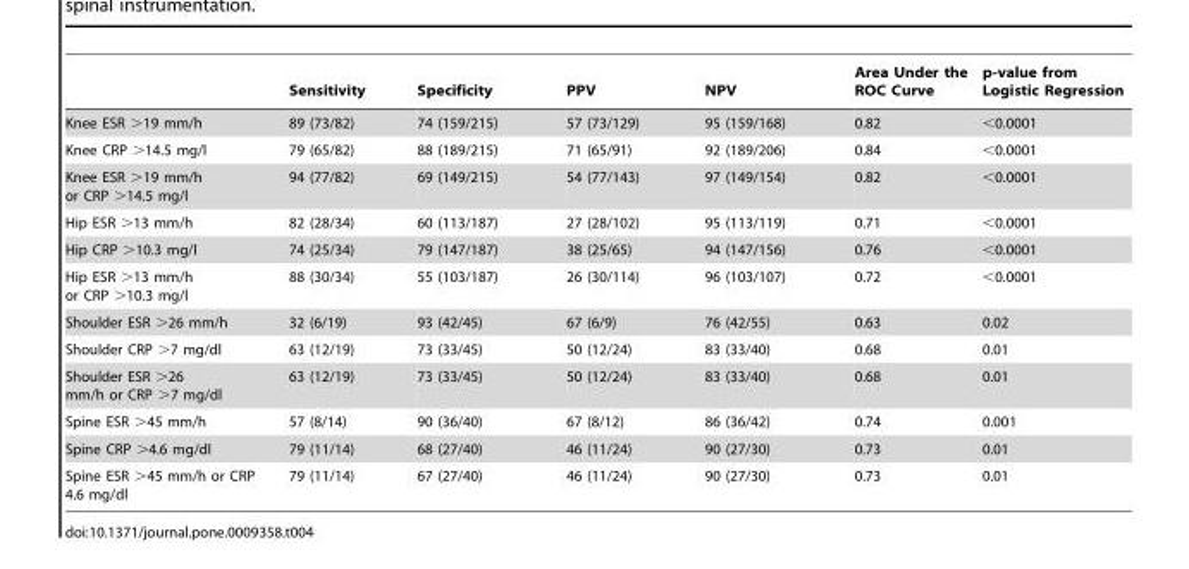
<table><thead><tr><td></td><td>Sensitivity</td><td>Specificity</td><td>PPV</td><td>NPV</td><td>Area Under the ROC Curve</td><td>p-value from Logistic Regression</td></tr></thead><tbody><tr><td>Knee ESR &gt;19 mm/h</td><td>89 (73/82)</td><td>74 (159/215)</td><td>57 (73/129)</td><td>95 (159/168)</td><td>0.82</td><td>&lt;0.0001</td></tr><tr><td>Knee CRP &gt;14.5 mg/l</td><td>79 (65/82)</td><td>88 (189/215)</td><td>71 (65/91)</td><td>92 (189/206)</td><td>0.84</td><td>&lt;0.0001</td></tr><tr><td>Knee ESR &gt;19 mm/h or CRP &gt;14.5 mg/l</td><td>94 (77/82)</td><td>69 (149/215)</td><td>54 (77/143)</td><td>97 (149/154)</td><td>0.82</td><td>&lt;0.0001</td></tr><tr><td>Hip ESR &gt;13 mm/h</td><td>82 (28/34)</td><td>60 (113/187)</td><td>27 (28/102)</td><td>95 (113/119)</td><td>0.71</td><td>&lt;0.0001</td></tr><tr><td>Hip CRP &gt;10.3 mg/l</td><td>74 (25/34)</td><td>79 (147/187)</td><td>38 (25/65)</td><td>94 (147/156)</td><td>0.76</td><td>&lt;0.0001</td></tr><tr><td>Hip ESR &gt;13 mm/h or CRP &gt;10.3 mg/l</td><td>88 (30/34)</td><td>55 (103/187)</td><td>26 (30/114)</td><td>96 (103/107)</td><td>0.72</td><td>&lt;0.0001</td></tr><tr><td>Shoulder ESR &gt;26 mm/h</td><td>32 (6/19)</td><td>93 (42/45)</td><td>67 (6/9)</td><td>76 (42/55)</td><td>0.63</td><td>0.02</td></tr><tr><td>Shoulder CRP &gt;7 mg/dl</td><td>63 (12/19)</td><td>73 (33/45)</td><td>50 (12/24)</td><td>83 (33/40)</td><td>0.68</td><td>0.01</td></tr><tr><td>Shoulder ESR &gt;26 mm/h or CRP &gt;7 mg/dl</td><td>63 (12/19)</td><td>73 (33/45)</td><td>50 (12/24)</td><td>83 (33/40)</td><td>0.68</td><td>0.01</td></tr><tr><td>Spine ESR &gt;45 mm/h</td><td>57 (8/14)</td><td>90 (36/40)</td><td>67 (8/12)</td><td>86 (36/42)</td><td>0.74</td><td>0.001</td></tr><tr><td>Spine CRP &gt;4.6 mg/dl</td><td>79 (11/14)</td><td>68 (27/40)</td><td>46 (11/24)</td><td>90 (27/30)</td><td>0.73</td><td>0.01</td></tr><tr><td>Spine ESR &gt;45 mm/h or CRP 4.6 mg/dl</td><td>79 (11/14)</td><td>67 (27/40)</td><td>46 (11/24)</td><td>90 (27/30)</td><td>0.73</td><td>0.01</td></tr></tbody></table>